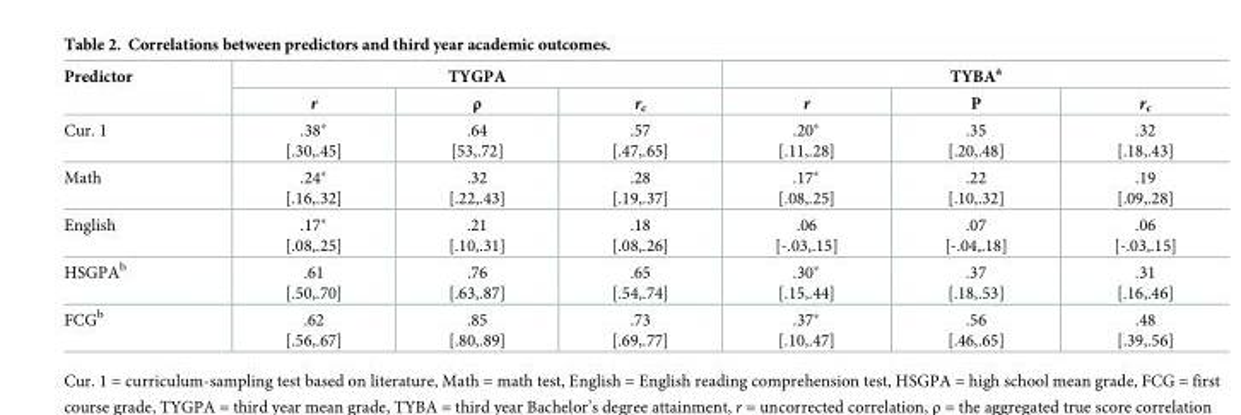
<table><thead><tr><td rowspan="2">Predictor</td><td colspan="3">TYGPA</td><td colspan="3">TYBA<sup>a</sup></td></tr><tr><td>r</td><td>ρ</td><td>r<sub>c</sub></td><td>r</td><td>P</td><td>r<sub>c</sub></td></tr></thead><tbody><tr><td>Cur. 1</td><td>.38* [.30,.45]</td><td>.64 [53,.72]</td><td>.57 [.47,.65]</td><td>.20* [.11,.28]</td><td>.35 [.20,.48]</td><td>.32 [.18,.43]</td></tr><tr><td>Math</td><td>.24* [.16,.32]</td><td>.32 [.22,.43]</td><td>.28 [.19,.37]</td><td>.17* [.08,.25]</td><td>.22 [.10,.32]</td><td>.19 [.09,.28]</td></tr><tr><td>English</td><td>.17* [.08,.25]</td><td>.21 [.10,.31]</td><td>.18 [.08,.26]</td><td>.06 [-.03,.15]</td><td>.07 [-.04,.18]</td><td>.06 [-.03,.15]</td></tr><tr><td>HSGPA<sup>b</sup></td><td>.61 [.50,.70]</td><td>.76 [.63,.87]</td><td>.65 [.54,.74]</td><td>.30* [.15,.44]</td><td>.37 [.18,.53]</td><td>.31 [.16,.46]</td></tr><tr><td>FCG<sup>b</sup></td><td>.62 [.56,.67]</td><td>.85 [.80,.89]</td><td>.73 [.69,.77]</td><td>.37* [.10,.47]</td><td>.56 [.46,.65]</td><td>.48 [.39,.56]</td></tr></tbody></table>